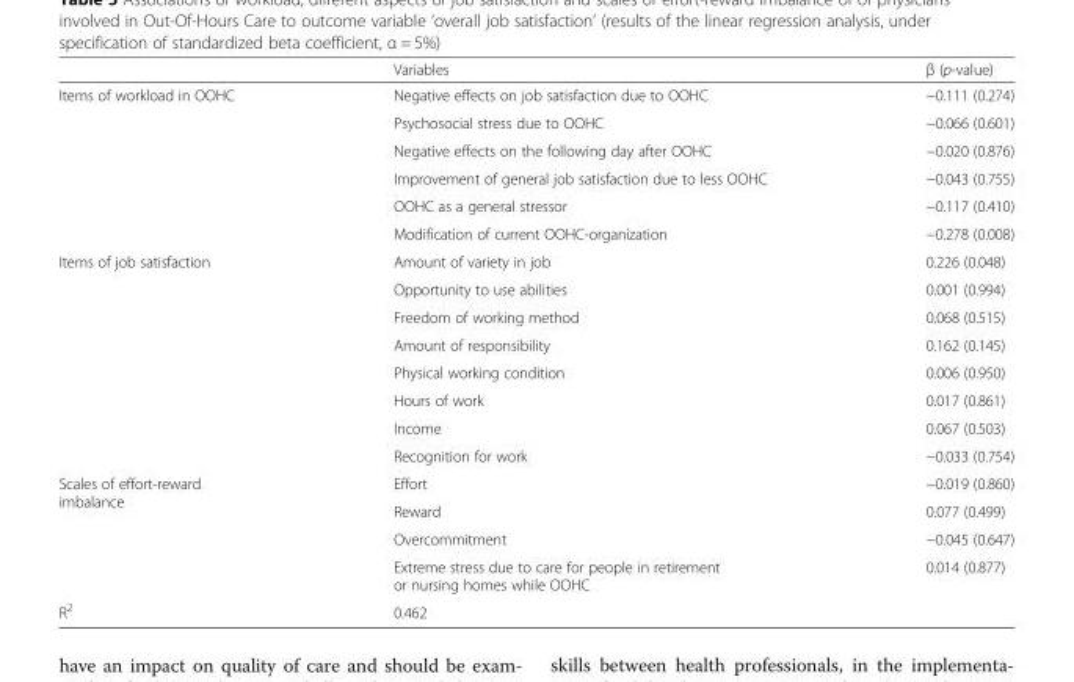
<table><thead><tr><td></td><td>Variables</td><td>β (p-value)</td></tr></thead><tbody><tr><td rowspan="6">Items of workload in OOHC</td><td>Negative effects on job satisfaction due to OOHC</td><td>−0.111 (0.274)</td></tr><tr><td>Psychosocial stress due to OOHC</td><td>−0.066 (0.601)</td></tr><tr><td>Negative effects on the following day after OOHC</td><td>−0.020 (0.876)</td></tr><tr><td>Improvement of general job satisfaction due to less OOHC</td><td>−0.043 (0.755)</td></tr><tr><td>OOHC as a general stressor</td><td>−0.117 (0.410)</td></tr><tr><td>Modification of current OOHC-organization</td><td>−0.278 (0.008)</td></tr><tr><td rowspan="8">Items of job satisfaction</td><td>Amount of variety in job</td><td>0.226 (0.048)</td></tr><tr><td>Opportunity to use abilities</td><td>0.001 (0.994)</td></tr><tr><td>Freedom of working method</td><td>0.068 (0.515)</td></tr><tr><td>Amount of responsibility</td><td>0.162 (0.145)</td></tr><tr><td>Physical working condition</td><td>0.006 (0.950)</td></tr><tr><td>Hours of work</td><td>0.017 (0.861)</td></tr><tr><td>Income</td><td>0.067 (0.503)</td></tr><tr><td>Recognition for work</td><td>−0.033 (0.754)</td></tr><tr><td rowspan="4">Scales of effort-reward imbalance</td><td>Effort</td><td>−0.019 (0.860)</td></tr><tr><td>Reward</td><td>0.077 (0.499)</td></tr><tr><td>Overcommitment</td><td>−0.045 (0.647)</td></tr><tr><td>Extreme stress due to care for people in retirement or nursing homes while OOHC</td><td>0.014 (0.877)</td></tr><tr><td>R<sup>2</sup></td><td colspan="2">0.462</td></tr></tbody></table>